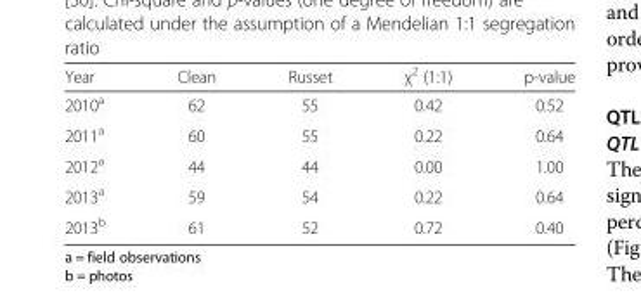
<table><thead><tr><td>Year</td><td>Clean</td><td>Russet</td><td>χ<sup>2</sup> (1:1)</td><td>p-value</td></tr></thead><tbody><tr><td>2010<sup>a</sup></td><td>62</td><td>55</td><td>0.42</td><td>0.52</td></tr><tr><td>2011<sup>a</sup></td><td>60</td><td>55</td><td>0.22</td><td>0.64</td></tr><tr><td>2012<sup>a</sup></td><td>44</td><td>44</td><td>0.00</td><td>1.00</td></tr><tr><td>2013<sup>a</sup></td><td>59</td><td>54</td><td>0.22</td><td>0.64</td></tr><tr><td>2013<sup>b</sup></td><td>61</td><td>52</td><td>0.72</td><td>0.40</td></tr></tbody></table>